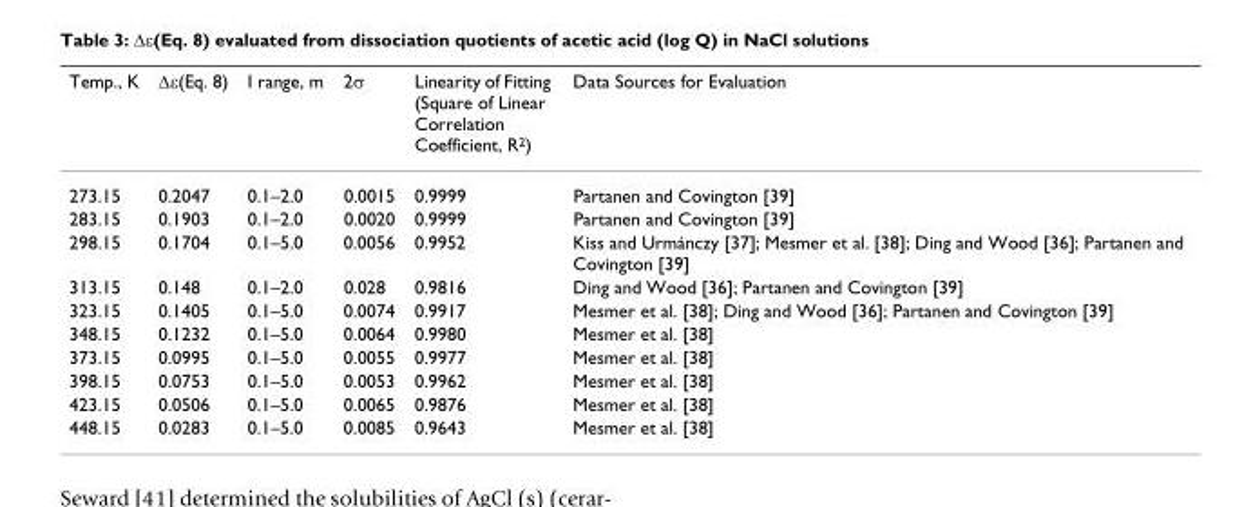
<table><thead><tr><td>Temp., K</td><td>∆ε(Eq. 8)</td><td>I range, m</td><td>2σ</td><td>Linearity of Fitting (Square of Linear Correlation Coefficient, R<sup>2</sup>)</td><td>Data Sources for Evaluation</td></tr></thead><tbody><tr><td>273.15</td><td>0.2047</td><td>0.1–2.0</td><td>0.0015</td><td>0.9999</td><td>Partanen and Covington [39]</td></tr><tr><td>283.15</td><td>0.1903</td><td>0.1–2.0</td><td>0.0020</td><td>0.9999</td><td>Partanen and Covington [39]</td></tr><tr><td>298.15</td><td>0.1704</td><td>0.1–5.0</td><td>0.0056</td><td>0.9952</td><td>Kiss and Urmánczy [37]; Mesmer et al. [38]; Ding and Wood [36]; Partanen and Covington [39]</td></tr><tr><td>313.15</td><td>0.148</td><td>0.1–2.0</td><td>0.028</td><td>0.9816</td><td>Ding and Wood [36]; Partanen and Covington [39]</td></tr><tr><td>323.15</td><td>0.1405</td><td>0.1–5.0</td><td>0.0074</td><td>0.9917</td><td>Mesmer et al. [38]; Ding and Wood [36]; Partanen and Covington [39]</td></tr><tr><td>348.15</td><td>0.1232</td><td>0.1–5.0</td><td>0.0064</td><td>0.9980</td><td>Mesmer et al. [38]</td></tr><tr><td>373.15</td><td>0.0995</td><td>0.1–5.0</td><td>0.0055</td><td>0.9977</td><td>Mesmer et al. [38]</td></tr><tr><td>398.15</td><td>0.0753</td><td>0.1–5.0</td><td>0.0053</td><td>0.9962</td><td>Mesmer et al. [38]</td></tr><tr><td>423.15</td><td>0.0506</td><td>0.1–5.0</td><td>0.0065</td><td>0.9876</td><td>Mesmer et al. [38]</td></tr><tr><td>448.15</td><td>0.0283</td><td>0.1–5.0</td><td>0.0085</td><td>0.9643</td><td>Mesmer et al. [38]</td></tr></tbody></table>